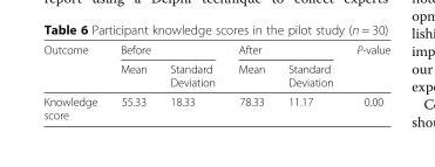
<table><thead><tr><td rowspan="2">Outcome</td><td colspan="2">Before</td><td colspan="2">After</td><td rowspan="2">P-value</td></tr><tr><td>Mean</td><td>Standard Deviation</td><td>Mean</td><td>Standard Deviation</td></tr></thead><tbody><tr><td>Knowledge score</td><td>55.33</td><td>18.33</td><td>78.33</td><td>11.17</td><td>0.00</td></tr></tbody></table>